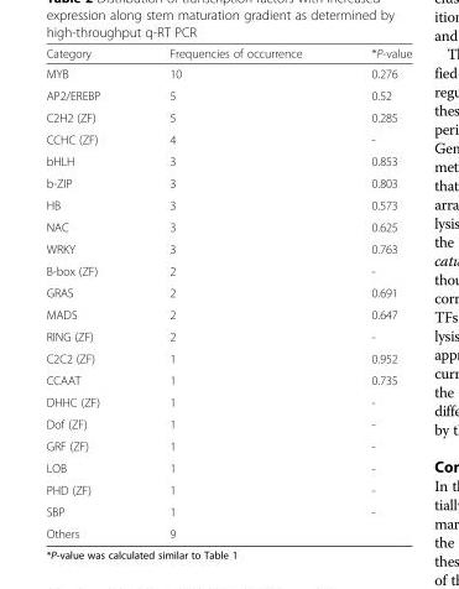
<table><thead><tr><td>Category</td><td>Frequencies of occurrence</td><td>*P-value</td></tr></thead><tbody><tr><td>MYB</td><td>10</td><td>0.276</td></tr><tr><td>AP2/EREBP</td><td>5</td><td>0.52</td></tr><tr><td>C2H2 (ZF)</td><td>5</td><td>0.285</td></tr><tr><td>CCHC (ZF)</td><td>4</td><td>-</td></tr><tr><td>bHLH</td><td>3</td><td>0.853</td></tr><tr><td>b-ZIP</td><td>3</td><td>0.803</td></tr><tr><td>HB</td><td>3</td><td>0.573</td></tr><tr><td>NAC</td><td>3</td><td>0.625</td></tr><tr><td>WRKY</td><td>3</td><td>0.763</td></tr><tr><td>B-box (ZF)</td><td>2</td><td>-</td></tr><tr><td>GRAS</td><td>2</td><td>0.691</td></tr><tr><td>MADS</td><td>2</td><td>0.647</td></tr><tr><td>RING (ZF)</td><td>2</td><td>-</td></tr><tr><td>C2C2 (ZF)</td><td>1</td><td>0.952</td></tr><tr><td>CCAAT</td><td>1</td><td>0.735</td></tr><tr><td>DHHC (ZF)</td><td>1</td><td>-</td></tr><tr><td>Dof (ZF)</td><td>1</td><td>-</td></tr><tr><td>GRF (ZF)</td><td>1</td><td>-</td></tr><tr><td>LOB</td><td>1</td><td>-</td></tr><tr><td>PHD (ZF)</td><td>1</td><td>-</td></tr><tr><td>SBP</td><td>1</td><td>-</td></tr><tr><td>Others</td><td>9</td><td></td></tr></tbody></table>